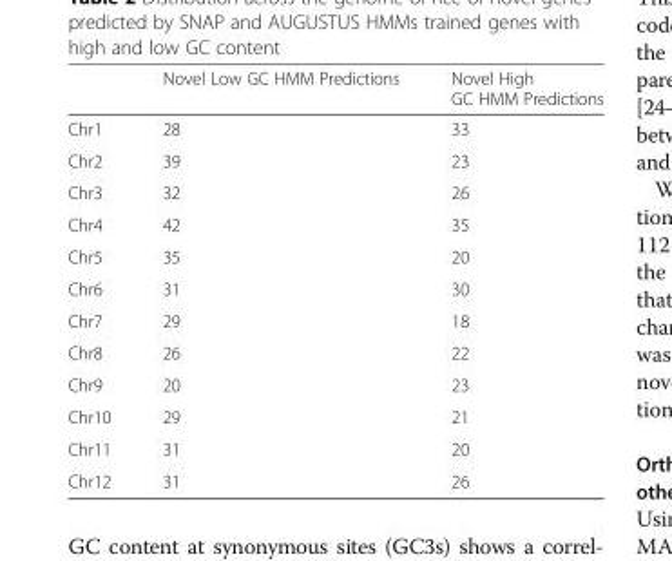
<table><thead><tr><td></td><td>Novel Low GC HMM Predictions</td><td>Novel High GC HMM Predictions</td></tr></thead><tbody><tr><td>Chr1</td><td>28</td><td>33</td></tr><tr><td>Chr2</td><td>39</td><td>23</td></tr><tr><td>Chr3</td><td>32</td><td>26</td></tr><tr><td>Chr4</td><td>42</td><td>35</td></tr><tr><td>Chr5</td><td>35</td><td>20</td></tr><tr><td>Chr6</td><td>31</td><td>30</td></tr><tr><td>Chr7</td><td>29</td><td>18</td></tr><tr><td>Chr8</td><td>26</td><td>22</td></tr><tr><td>Chr9</td><td>20</td><td>23</td></tr><tr><td>Chr10</td><td>29</td><td>21</td></tr><tr><td>Chr11</td><td>31</td><td>20</td></tr><tr><td>Chr12</td><td>31</td><td>26</td></tr></tbody></table>